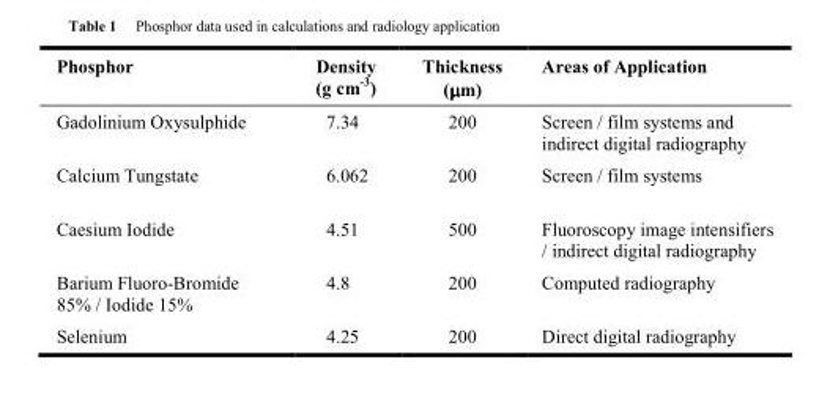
<table><thead><tr><td>Phosphor</td><td>Density (g cm<sup>-3</sup>)</td><td>Thickness (µµµµm)</td><td>Areas of Application</td></tr></thead><tbody><tr><td>Gadolinium Oxysulphide</td><td>7.34</td><td>200</td><td>Screen / film systems and indirect digital radiography</td></tr><tr><td>Calcium Tungstate</td><td>6.062</td><td>200</td><td>Screen / film systems</td></tr><tr><td>Caesium Iodide</td><td>4.51</td><td>500</td><td>Fluoroscopy image intensifiers / indirect digital radiography</td></tr><tr><td>Barium Fluoro-Bromide 85% / Iodide 15%</td><td>4.8</td><td>200</td><td>Computed radiography</td></tr><tr><td>Selenium</td><td>4.25</td><td>200</td><td>Direct digital radiography</td></tr></tbody></table>